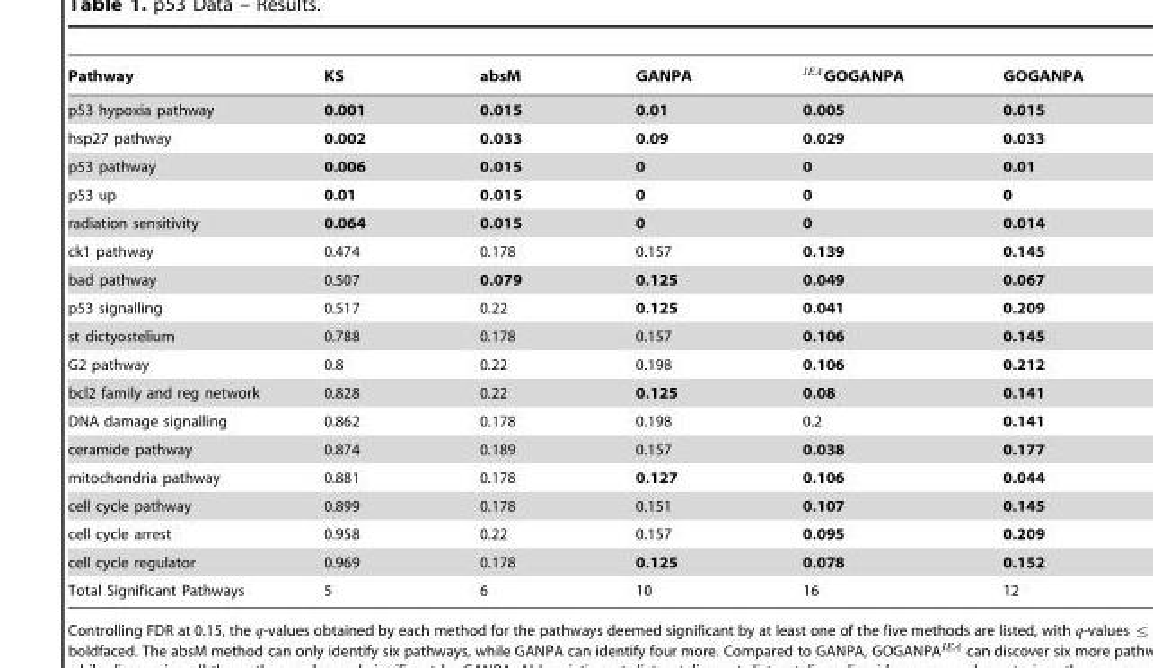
<table><thead><tr><td>Pathway</td><td>KS</td><td>absM</td><td>GANPA</td><td>IEAGOGANPA</td><td>GOGANPA</td></tr></thead><tbody><tr><td>p53 hypoxia pathway</td><td>0.001</td><td>0.015</td><td>0.01</td><td>0.005</td><td>0.015</td></tr><tr><td>hsp27 pathway</td><td>0.002</td><td>0.033</td><td>0.09</td><td>0.029</td><td>0.033</td></tr><tr><td>p53 pathway</td><td>0.006</td><td>0.015</td><td>0</td><td>0</td><td>0.01</td></tr><tr><td>p53 up</td><td>0.01</td><td>0.015</td><td>0</td><td>0</td><td>0</td></tr><tr><td>radiation sensitivity</td><td>0.064</td><td>0.015</td><td>0</td><td>0</td><td>0.014</td></tr><tr><td>ck1 pathway</td><td>0.474</td><td>0.178</td><td>0.157</td><td>0.139</td><td>0.145</td></tr><tr><td>bad pathway</td><td>0.507</td><td>0.079</td><td>0.125</td><td>0.049</td><td>0.067</td></tr><tr><td>p53 signalling</td><td>0.517</td><td>0.22</td><td>0.125</td><td>0.041</td><td>0.209</td></tr><tr><td>st dictyostelium</td><td>0.788</td><td>0.178</td><td>0.157</td><td>0.106</td><td>0.145</td></tr><tr><td>G2 pathway</td><td>0.8</td><td>0.22</td><td>0.198</td><td>0.106</td><td>0.212</td></tr><tr><td>bcl2 family and reg network</td><td>0.828</td><td>0.22</td><td>0.125</td><td>0.08</td><td>0.141</td></tr><tr><td>DNA damage signalling</td><td>0.862</td><td>0.178</td><td>0.198</td><td>0.2</td><td>0.141</td></tr><tr><td>ceramide pathway</td><td>0.874</td><td>0.189</td><td>0.157</td><td>0.038</td><td>0.177</td></tr><tr><td>mitochondria pathway</td><td>0.881</td><td>0.178</td><td>0.127</td><td>0.106</td><td>0.044</td></tr><tr><td>cell cycle pathway</td><td>0.899</td><td>0.178</td><td>0.151</td><td>0.107</td><td>0.145</td></tr><tr><td>cell cycle arrest</td><td>0.958</td><td>0.22</td><td>0.157</td><td>0.095</td><td>0.209</td></tr><tr><td>cell cycle regulator</td><td>0.969</td><td>0.178</td><td>0.125</td><td>0.078</td><td>0.152</td></tr><tr><td>Total Significant Pathways</td><td>5</td><td>6</td><td>10</td><td>16</td><td>12</td></tr></tbody></table>